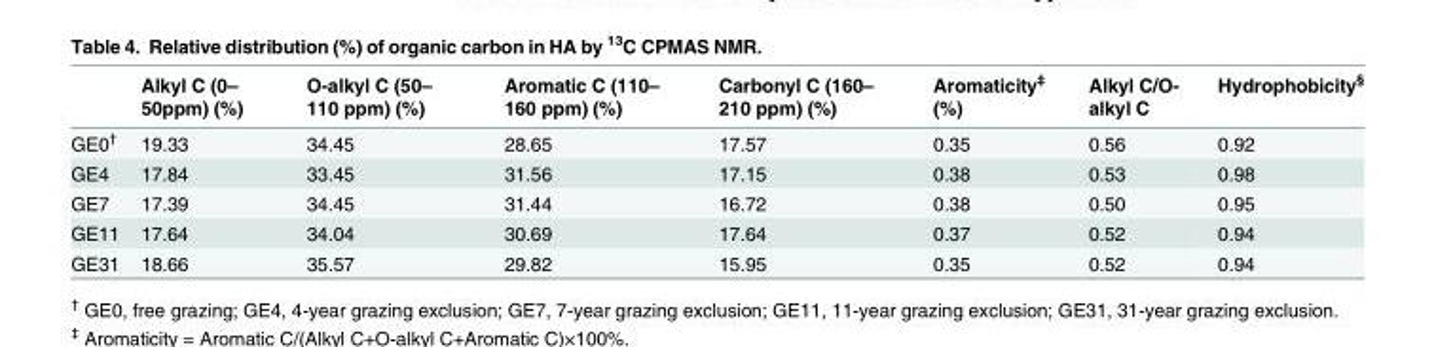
<table><thead><tr><td></td><td>Alkyl C (0– 50ppm) (%)</td><td>O-alkyl C (50– 110 ppm) (%)</td><td>Aromatic C (110– 160 ppm) (%)</td><td>Carbonyl C (160– 210 ppm) (%)</td><td>Aromaticity<sup>‡</sup> (%)</td><td>Alkyl C/O- alkyl C</td><td>Hydrophobicity<sup>§</sup></td></tr></thead><tbody><tr><td>GE0<sup>†</sup></td><td>19.33</td><td>34.45</td><td>28.65</td><td>17.57</td><td>0.35</td><td>0.56</td><td>0.92</td></tr><tr><td>GE4</td><td>17.84</td><td>33.45</td><td>31.56</td><td>17.15</td><td>0.38</td><td>0.53</td><td>0.98</td></tr><tr><td>GE7</td><td>17.39</td><td>34.45</td><td>31.44</td><td>16.72</td><td>0.38</td><td>0.50</td><td>0.95</td></tr><tr><td>GE11</td><td>17.64</td><td>34.04</td><td>30.69</td><td>17.64</td><td>0.37</td><td>0.52</td><td>0.94</td></tr><tr><td>GE31</td><td>18.66</td><td>35.57</td><td>29.82</td><td>15.95</td><td>0.35</td><td>0.52</td><td>0.94</td></tr></tbody></table>